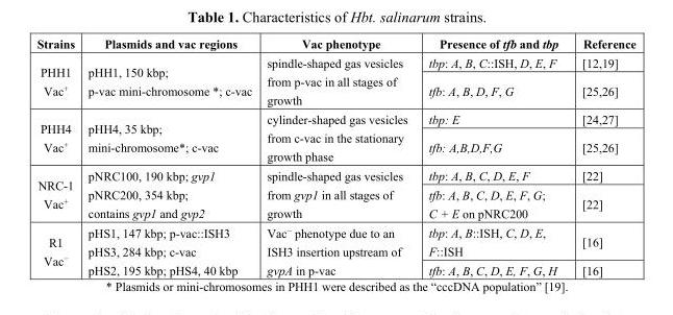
<table><thead><tr><td>Strains</td><td>Plasmids and vac regions</td><td>Vac phenotype</td><td>Presence of tfb and tbp</td><td>Reference</td></tr></thead><tbody><tr><td rowspan="2">PHH1 Vac<sup>+</sup></td><td rowspan="2">pHH1, 150 kbp; p-vac mini-chromosome *; c-vac</td><td rowspan="2">spindle-shaped gas vesicles from p-vac in all stages of growth</td><td>tbp: A, B, C::ISH, D, E, F</td><td>[12,19]</td></tr><tr><td>tfb: A, B, D, F, G</td><td>[25,26]</td></tr><tr><td rowspan="2">PHH4 Vac<sup>+</sup></td><td rowspan="2">pHH4, 35 kbp; mini-chromosome*; c-vac</td><td rowspan="2">cylinder-shaped gas vesicles from c-vac in the stationary growth phase</td><td>tbp: E</td><td>[24,27]</td></tr><tr><td>tfb: A,B,D,F,G</td><td>[25,26]</td></tr><tr><td rowspan="2">NRC-1 Vac<sup>+</sup></td><td rowspan="2">pNRC100, 190 kbp; gvp1 pNRC200, 354 kbp; contains gvp1 and gvp2</td><td rowspan="2">spindle-shaped gas vesicles from gvp1 in all stages of growth</td><td>tbp: A, B, C, D, E, F</td><td>[22]</td></tr><tr><td>tfb: A, B, C, D, E, F, G; C + E on pNRC200</td><td>[22]</td></tr><tr><td rowspan="2">R1 Vac<sup>−</sup></td><td rowspan="2">pHS1, 147 kbp; p-vac::ISH3 pHS3, 284 kbp; c-vac pHS2, 195 kbp; pHS4, 40 kbp</td><td rowspan="2">Vac<sup>−</sup> phenotype due to an ISH3 insertion upstream of gvpA in p-vac</td><td>tbp: A, B::ISH, C, D, E, F::ISH</td><td>[16]</td></tr><tr><td>tfb: A, B, C, D, E, F, G, H</td><td>[16]</td></tr></tbody></table>